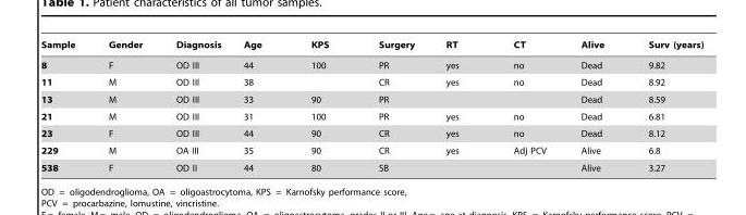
<table><thead><tr><td>Sample</td><td>Gender</td><td>Diagnosis</td><td>Age</td><td>KPS</td><td>Surgery</td><td>RT</td><td>CT</td><td>Alive</td><td>Surv (years)</td></tr></thead><tbody><tr><td>8</td><td>F</td><td>OD III</td><td>44</td><td>100</td><td>PR</td><td>yes</td><td>no</td><td>Dead</td><td>9.82</td></tr><tr><td>11</td><td>M</td><td>OD III</td><td>38</td><td></td><td>CR</td><td>yes</td><td>no</td><td>Dead</td><td>8.92</td></tr><tr><td>13</td><td>M</td><td>OD III</td><td>33</td><td>90</td><td>PR</td><td></td><td></td><td>Dead</td><td>8.59</td></tr><tr><td>21</td><td>M</td><td>OD III</td><td>31</td><td>100</td><td>PR</td><td>yes</td><td>no</td><td>Dead</td><td>6.81</td></tr><tr><td>23</td><td>F</td><td>OD III</td><td>44</td><td>90</td><td>CR</td><td>yes</td><td>no</td><td>Dead</td><td>8.12</td></tr><tr><td>229</td><td>M</td><td>OA III</td><td>35</td><td>90</td><td>CR</td><td>yes</td><td>Adj PCV</td><td>Alive</td><td>6.8</td></tr><tr><td>538</td><td>F</td><td>OD II</td><td>44</td><td>80</td><td>SB</td><td></td><td></td><td>Alive</td><td>3.27</td></tr></tbody></table>